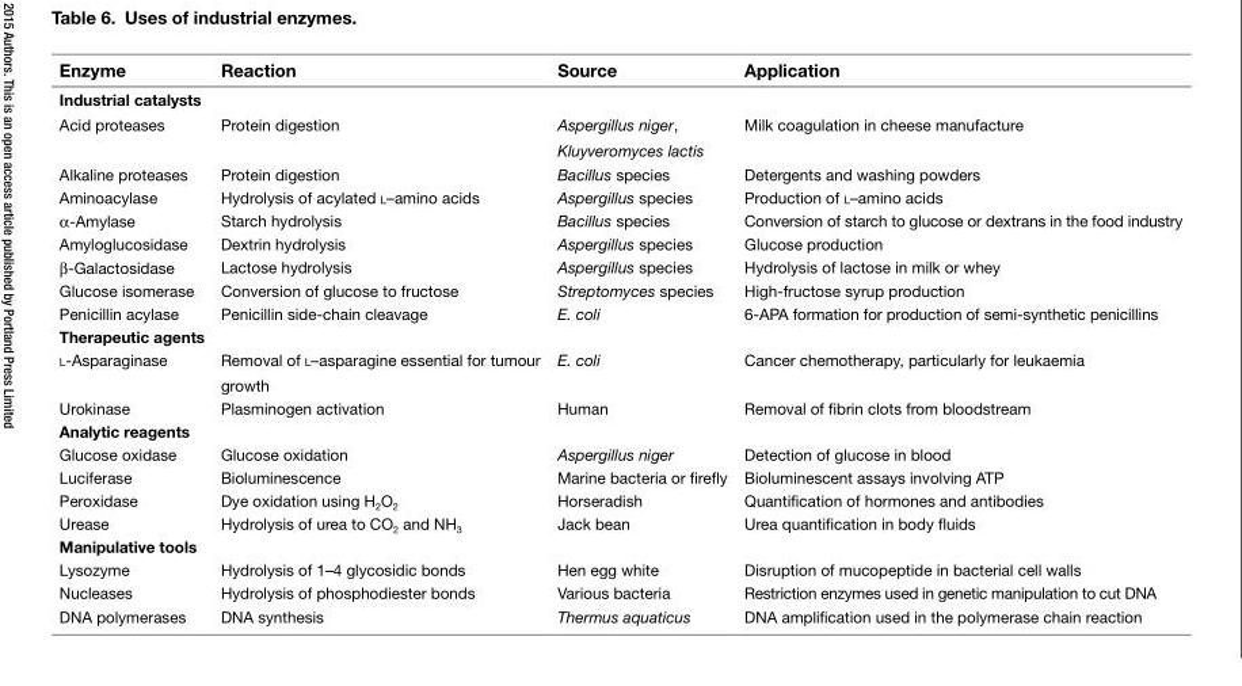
<table><thead><tr><td>Enzyme</td><td>Reaction</td><td>Source</td><td>Application</td></tr></thead><tbody><tr><td colspan="4">Industrial catalysts</td></tr><tr><td>Acid proteases</td><td>Protein digestion</td><td>Aspergillus niger, Kluyveromyces lactis</td><td>Milk coagulation in cheese manufacture</td></tr><tr><td>Alkaline proteases</td><td>Protein digestion</td><td>Bacillus species</td><td>Detergents and washing powders</td></tr><tr><td>Aminoacylase</td><td>Hydrolysis of acylated l–amino acids</td><td>Aspergillus species</td><td>Production of l–amino acids</td></tr><tr><td>α-Amylase</td><td>Starch hydrolysis</td><td>Bacillus species</td><td>Conversion of starch to glucose or dextrans in the food industry</td></tr><tr><td>Amyloglucosidase</td><td>Dextrin hydrolysis</td><td>Aspergillus species</td><td>Glucose production</td></tr><tr><td>β-Galactosidase</td><td>Lactose hydrolysis</td><td>Aspergillus species</td><td>Hydrolysis of lactose in milk or whey</td></tr><tr><td>Glucose isomerase</td><td>Conversion of glucose to fructose</td><td>Streptomyces species</td><td>High-fructose syrup production</td></tr><tr><td>Penicillin acylase</td><td>Penicillin side-chain cleavage</td><td>E. coli</td><td>6-APA formation for production of semi-synthetic penicillins</td></tr><tr><td colspan="4">Therapeutic agents</td></tr><tr><td>l-Asparaginase</td><td>Removal of l–asparagine essential for tumour growth</td><td>E. coli</td><td>Cancer chemotherapy, particularly for leukaemia</td></tr><tr><td>Urokinase</td><td>Plasminogen activation</td><td>Human</td><td>Removal of fibrin clots from bloodstream</td></tr><tr><td colspan="4">Analytic reagents</td></tr><tr><td>Glucose oxidase</td><td>Glucose oxidation</td><td>Aspergillus niger</td><td>Detection of glucose in blood</td></tr><tr><td>Luciferase</td><td>Bioluminescence</td><td>Marine bacteria or firefly</td><td>Bioluminescent assays involving ATP</td></tr><tr><td>Peroxidase</td><td>Dye oxidation using H<sub>2</sub>O<sub>2</sub></td><td>Horseradish</td><td>Quantification of hormones and antibodies</td></tr><tr><td>Urease</td><td>Hydrolysis of urea to CO<sub>2</sub> and NH<sub>3</sub></td><td>Jack bean</td><td>Urea quantification in body fluids</td></tr><tr><td colspan="4">Manipulative tools</td></tr><tr><td>Lysozyme</td><td>Hydrolysis of 1–4 glycosidic bonds</td><td>Hen egg white</td><td>Disruption of mucopeptide in bacterial cell walls</td></tr><tr><td>Nucleases</td><td>Hydrolysis of phosphodiester bonds</td><td>Various bacteria</td><td>Restriction enzymes used in genetic manipulation to cut DNA</td></tr><tr><td>DNA polymerases</td><td>DNA synthesis</td><td>Thermus aquaticus</td><td>DNA amplification used in the polymerase chain reaction</td></tr></tbody></table>